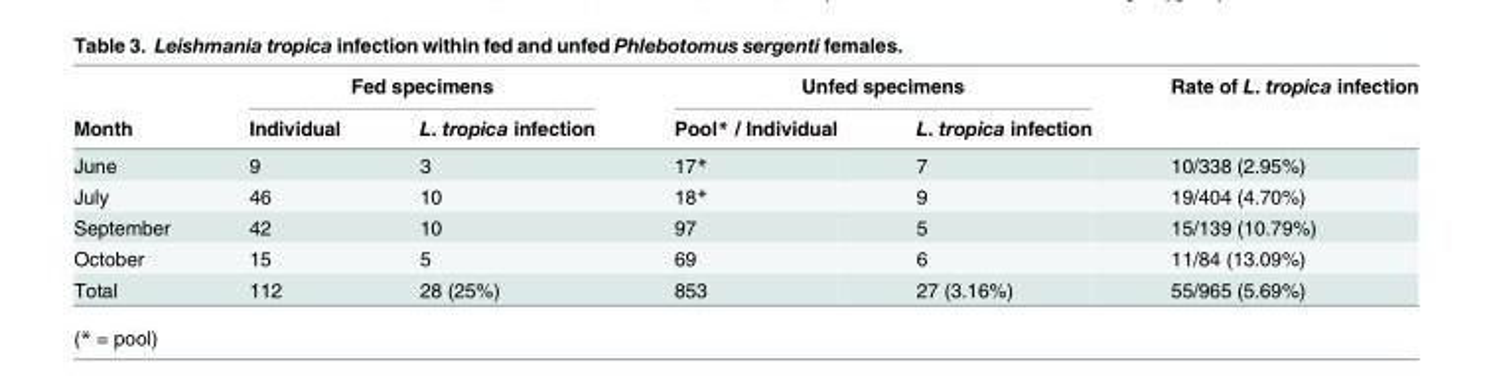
<table><thead><tr><td rowspan="2">Month</td><td colspan="2">Fed specimens</td><td colspan="2">Unfed specimens</td><td rowspan="2">Rate of L. tropica infection</td></tr><tr><td>Individual</td><td>L. tropica infection</td><td>Pool* / Individual</td><td>L. tropica infection</td></tr></thead><tbody><tr><td>June</td><td>9</td><td>3</td><td>17*</td><td>7</td><td>10/338 (2.95%)</td></tr><tr><td>July</td><td>46</td><td>10</td><td>18*</td><td>9</td><td>19/404 (4.70%)</td></tr><tr><td>September</td><td>42</td><td>10</td><td>97</td><td>5</td><td>15/139 (10.79%)</td></tr><tr><td>October</td><td>15</td><td>5</td><td>69</td><td>6</td><td>11/84 (13.09%)</td></tr><tr><td>Total</td><td>112</td><td>28 (25%)</td><td>853</td><td>27 (3.16%)</td><td>55/965 (5.69%)</td></tr></tbody></table>